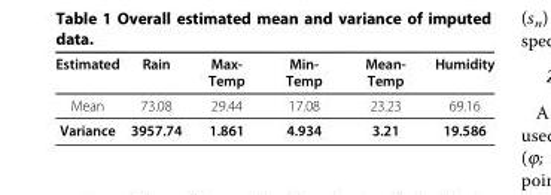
<table><thead><tr><td>Estimated</td><td>Rain</td><td>Max- Temp</td><td>Min- Temp</td><td>Mean- Temp</td><td>Humidity</td></tr></thead><tbody><tr><td>Mean</td><td>73.08</td><td>29.44</td><td>17.08</td><td>23.23</td><td>69.16</td></tr><tr><td>Variance</td><td>3957.74</td><td>1.861</td><td>4.934</td><td>3.21</td><td>19.586</td></tr></tbody></table>